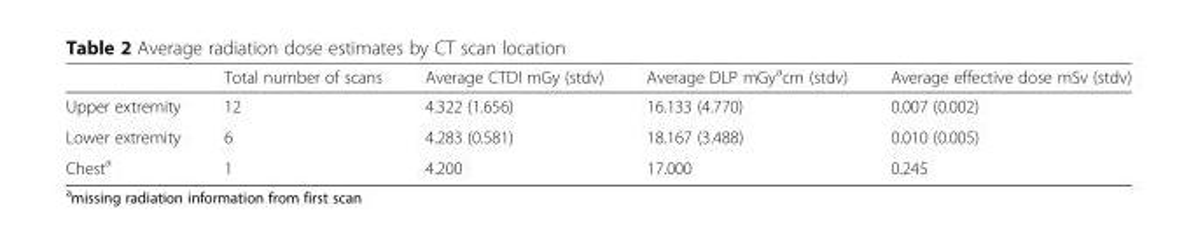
<table><thead><tr><td></td><td>Total number of scans</td><td>Average CTDI mGy (stdv)</td><td>Average DLP mGy<sup>a</sup>cm (stdv)</td><td>Average effective dose mSv (stdv)</td></tr></thead><tbody><tr><td>Upper extremity</td><td>12</td><td>4.322 (1.656)</td><td>16.133 (4.770)</td><td>0.007 (0.002)</td></tr><tr><td>Lower extremity</td><td>6</td><td>4.283 (0.581)</td><td>18.167 (3.488)</td><td>0.010 (0.005)</td></tr><tr><td>Chest<sup>a</sup></td><td>1</td><td>4.200</td><td>17.000</td><td>0.245</td></tr></tbody></table>